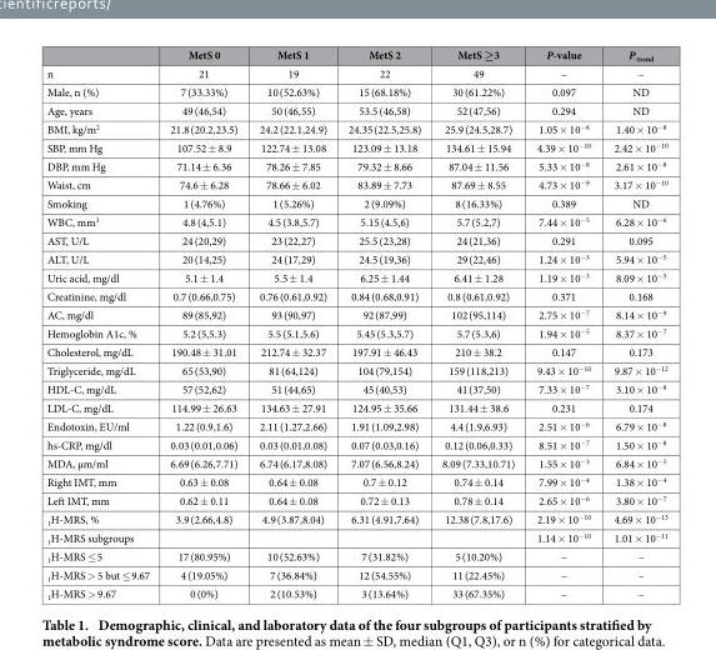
<table><thead><tr><td></td><td>MetS 0</td><td>MetS 1</td><td>MetS 2</td><td>MetS ≥3</td><td>P-value</td><td>P<sub>-trend</sub></td></tr></thead><tbody><tr><td>n</td><td>21</td><td>19</td><td>22</td><td>49</td><td>–</td><td>–</td></tr><tr><td>Male, n (%)</td><td>7 (33.33%)</td><td>10 (52.63%)</td><td>15 (68.18%)</td><td>30 (61.22%)</td><td>0.097</td><td>ND</td></tr><tr><td>Age, years</td><td>49 (46,54)</td><td>50 (46,55)</td><td>53.5 (46,58)</td><td>52 (47,56)</td><td>0.294</td><td>ND</td></tr><tr><td>BMI, kg/m<sup>2</sup></td><td>21.8 (20.2,23.5)</td><td>24.2 (22.1,24.9)</td><td>24.35 (22.5,25.8)</td><td>25.9 (24.5,28.7)</td><td>1.05 × 10<sup>−6</sup></td><td>1.40 × 10<sup>−8</sup></td></tr><tr><td>SBP, mm Hg</td><td>107.52 ± 8.9</td><td>122.74 ± 13.08</td><td>123.09 ± 13.18</td><td>134.61 ± 15.94</td><td>4.39 × 10<sup>−10</sup></td><td>2.42 × 10<sup>−10</sup></td></tr><tr><td>DBP, mm Hg</td><td>71.14 ± 6.36</td><td>78.26 ± 7.85</td><td>79.32 ± 8.66</td><td>87.04 ± 11.56</td><td>5.33 × 10<sup>−8</sup></td><td>2.61 × 10<sup>−8</sup></td></tr><tr><td>Waist, cm</td><td>74.6 ± 6.28</td><td>78.66 ± 6.02</td><td>83.89 ± 7.73</td><td>87.69 ± 8.55</td><td>4.73 × 10<sup>−9</sup></td><td>3.17 × 10<sup>−10</sup></td></tr><tr><td>Smoking</td><td>1 (4.76%)</td><td>1 (5.26%)</td><td>2 (9.09%)</td><td>8 (16.33%)</td><td>0.389</td><td>ND</td></tr><tr><td>WBC, mm<sup>3</sup></td><td>4.8 (4,5.1)</td><td>4.5 (3.8,5.7)</td><td>5.15 (4.5,6)</td><td>5.7 (5.2,7)</td><td>7.44 × 10<sup>−5</sup></td><td>6.28 × 10<sup>−6</sup></td></tr><tr><td>AST, U/L</td><td>24 (20,29)</td><td>23 (22,27)</td><td>25.5 (23,28)</td><td>24 (21,36)</td><td>0.291</td><td>0.095</td></tr><tr><td>ALT, U/L</td><td>20 (14,25)</td><td>24 (17,29)</td><td>24.5 (19,36)</td><td>29 (22,46)</td><td>1.24 × 10<sup>−3</sup></td><td>5.94 × 10<sup>−5</sup></td></tr><tr><td>Uric acid, mg/dl</td><td>5.1 ± 1.4</td><td>5.5 ± 1.4</td><td>6.25 ± 1.44</td><td>6.41 ± 1.28</td><td>1.19 × 10<sup>−3</sup></td><td>8.09 × 10<sup>−5</sup></td></tr><tr><td>Creatinine, mg/dl</td><td>0.7 (0.66,0.75)</td><td>0.76 (0.61,0.92)</td><td>0.84 (0.68,0.91)</td><td>0.8 (0.61,0.92)</td><td>0.371</td><td>0.168</td></tr><tr><td>AC, mg/dl</td><td>89 (85,92)</td><td>93 (90,97)</td><td>92 (87,99)</td><td>102 (95,114)</td><td>2.75 × 10<sup>−7</sup></td><td>8.14 × 10<sup>−9</sup></td></tr><tr><td>Hemoglobin A1c, %</td><td>5.2 (5,5.3)</td><td>5.5 (5.1,5.6)</td><td>5.45 (5.3,5.7)</td><td>5.7 (5.3,6)</td><td>1.94 × 10<sup>−5</sup></td><td>8.37 × 10<sup>−7</sup></td></tr><tr><td>Cholesterol, mg/dL</td><td>190.48 ± 31.01</td><td>212.74 ± 32.37</td><td>197.91 ± 46.43</td><td>210 ± 38.2</td><td>0.147</td><td>0.173</td></tr><tr><td>Triglyceride, mg/dL</td><td>65 (53,90)</td><td>81 (64,124)</td><td>104 (79,154)</td><td>159 (118,213)</td><td>9.43 × 10<sup>−10</sup></td><td>9.87 × 10<sup>−12</sup></td></tr><tr><td>HDL-C, mg/dL</td><td>57 (52,62)</td><td>51 (44,65)</td><td>45 (40,53)</td><td>41 (37,50)</td><td>7.33 × 10<sup>−7</sup></td><td>3.10 × 10<sup>−8</sup></td></tr><tr><td>LDL-C, mg/dL</td><td>114.99 ± 26.63</td><td>134.63 ± 27.91</td><td>124.95 ± 35.66</td><td>131.44 ± 38.6</td><td>0.231</td><td>0.174</td></tr><tr><td>Endotoxin, EU/ml</td><td>1.22 (0.9,1.6)</td><td>2.11 (1.27,2.66)</td><td>1.91 (1.09,2.98)</td><td>4.4 (1.9,6.93)</td><td>2.51 × 10<sup>−6</sup></td><td>6.79 × 10<sup>−8</sup></td></tr><tr><td>hs-CRP, mg/dl</td><td>0.03 (0.01,0.06)</td><td>0.03 (0.01,0.08)</td><td>0.07 (0.03,0.16)</td><td>0.12 (0.06,0.33)</td><td>8.51 × 10<sup>−7</sup></td><td>1.50 × 10<sup>−8</sup></td></tr><tr><td>MDA, μm/ml</td><td>6.69 (6.26,7.71)</td><td>6.74 (6.17,8.08)</td><td>7.07 (6.56,8.24)</td><td>8.09 (7.33,10.71)</td><td>1.55 × 10<sup>−3</sup></td><td>6.84 × 10<sup>−5</sup></td></tr><tr><td>Right IMT, mm</td><td>0.63 ± 0.08</td><td>0.64 ± 0.08</td><td>0.7 ± 0.12</td><td>0.74 ± 0.14</td><td>7.99 × 10<sup>−4</sup></td><td>1.38 × 10<sup>−4</sup></td></tr><tr><td>Left IMT, mm</td><td>0.62 ± 0.11</td><td>0.64 ± 0.08</td><td>0.72 ± 0.13</td><td>0.78 ± 0.14</td><td>2.65 × 10<sup>−6</sup></td><td>3.80 × 10<sup>−7</sup></td></tr><tr><td><sub>1</sub>H-MRS, %</td><td>3.9 (2.66,4.8)</td><td>4.9 (3.87,8.04)</td><td>6.31 (4.91,7.64)</td><td>12.38 (7.8,17.6)</td><td>2.19 × 10<sup>−10</sup></td><td>4.69 × 10<sup>−13</sup></td></tr><tr><td><sub>1</sub>H-MRS subgroups</td><td></td><td></td><td></td><td></td><td>1.14 × 10<sup>−10</sup></td><td>1.01 × 10<sup>−11</sup></td></tr><tr><td><sub>1</sub>H-MRS ≤ 5</td><td>17 (80.95%)</td><td>10 (52.63%)</td><td>7 (31.82%)</td><td>5 (10.20%)</td><td>–</td><td>–</td></tr><tr><td><sub>1</sub>H-MRS &gt; 5 but ≤ 9.67</td><td>4 (19.05%)</td><td>7 (36.84%)</td><td>12 (54.55%)</td><td>11 (22.45%)</td><td>–</td><td>–</td></tr><tr><td><sub>1</sub>H-MRS &gt; 9.67</td><td>0 (0%)</td><td>2 (10.53%)</td><td>3 (13.64%)</td><td>33 (67.35%)</td><td>–</td><td>–</td></tr></tbody></table>